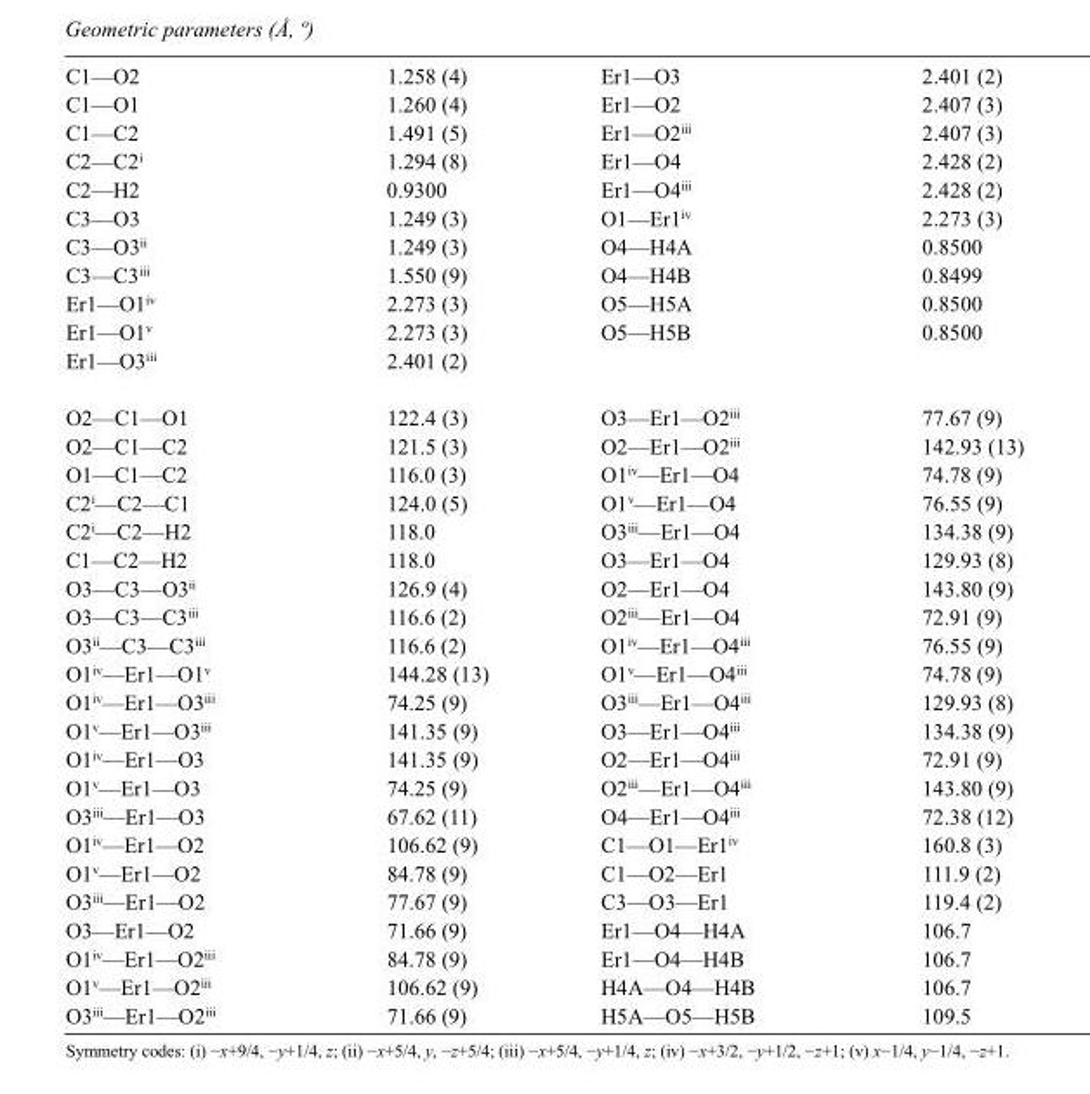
<table><tbody><tr><td>C1—O2</td><td>1.258 (4)</td><td>Er1—O3</td><td>2.401 (2)</td></tr><tr><td>C1—O1</td><td>1.260 (4)</td><td>Er1—O2</td><td>2.407 (3)</td></tr><tr><td>C1—C2</td><td>1.491 (5)</td><td>Er1—O2<sup>iii</sup></td><td>2.407 (3)</td></tr><tr><td>C2—C2<sup>i</sup></td><td>1.294 (8)</td><td>Er1—O4</td><td>2.428 (2)</td></tr><tr><td>C2—H2</td><td>0.9300</td><td>Er1—O4<sup>iii</sup></td><td>2.428 (2)</td></tr><tr><td>C3—O3</td><td>1.249 (3)</td><td>O1—Er1<sup>iv</sup></td><td>2.273 (3)</td></tr><tr><td>C3—O3<sup>ii</sup></td><td>1.249 (3)</td><td>O4—H4A</td><td>0.8500</td></tr><tr><td>C3—C3<sup>iii</sup></td><td>1.550 (9)</td><td>O4—H4B</td><td>0.8499</td></tr><tr><td>Er1—O1<sup>iv</sup></td><td>2.273 (3)</td><td>O5—H5A</td><td>0.8500</td></tr><tr><td>Er1—O1<sup>v</sup></td><td>2.273 (3)</td><td>O5—H5B</td><td>0.8500</td></tr><tr><td>Er1—O3<sup>iii</sup></td><td>2.401 (2)</td><td></td><td></td></tr><tr><td>O2—C1—O1</td><td>122.4 (3)</td><td>O3—Er1—O2<sup>iii</sup></td><td>77.67 (9)</td></tr><tr><td>O2—C1—C2</td><td>121.5 (3)</td><td>O2—Er1—O2<sup>iii</sup></td><td>142.93 (13)</td></tr><tr><td>O1—C1—C2</td><td>116.0 (3)</td><td>O1<sup>iv</sup>—Er1—O4</td><td>74.78 (9)</td></tr><tr><td>C2<sup>i</sup>—C2—C1</td><td>124.0 (5)</td><td>O1<sup>v</sup>—Er1—O4</td><td>76.55 (9)</td></tr><tr><td>C2<sup>i</sup>—C2—H2</td><td>118.0</td><td>O3<sup>iii</sup>—Er1—O4</td><td>134.38 (9)</td></tr><tr><td>C1—C2—H2</td><td>118.0</td><td>O3—Er1—O4</td><td>129.93 (8)</td></tr><tr><td>O3—C3—O3<sup>ii</sup></td><td>126.9 (4)</td><td>O2—Er1—O4</td><td>143.80 (9)</td></tr><tr><td>O3—C3—C3<sup>iii</sup></td><td>116.6 (2)</td><td>O2<sup>iii</sup>—Er1—O4</td><td>72.91 (9)</td></tr><tr><td>O3<sup>ii</sup>—C3—C3<sup>iii</sup></td><td>116.6 (2)</td><td>O1<sup>iv</sup>—Er1—O4<sup>iii</sup></td><td>76.55 (9)</td></tr><tr><td>O1<sup>iv</sup>—Er1—O1<sup>v</sup></td><td>144.28 (13)</td><td>O1<sup>v</sup>—Er1—O4<sup>iii</sup></td><td>74.78 (9)</td></tr><tr><td>O1<sup>iv</sup>—Er1—O3<sup>iii</sup></td><td>74.25 (9)</td><td>O3<sup>iii</sup>—Er1—O4<sup>iii</sup></td><td>129.93 (8)</td></tr><tr><td>O1<sup>v</sup>—Er1—O3<sup>iii</sup></td><td>141.35 (9)</td><td>O3—Er1—O4<sup>iii</sup></td><td>134.38 (9)</td></tr><tr><td>O1<sup>iv</sup>—Er1—O3</td><td>141.35 (9)</td><td>O2—Er1—O4<sup>iii</sup></td><td>72.91 (9)</td></tr><tr><td>O1<sup>v</sup>—Er1—O3</td><td>74.25 (9)</td><td>O2<sup>iii</sup>—Er1—O4<sup>iii</sup></td><td>143.80 (9)</td></tr><tr><td>O3<sup>iii</sup>—Er1—O3</td><td>67.62 (11)</td><td>O4—Er1—O4<sup>iii</sup></td><td>72.38 (12)</td></tr><tr><td>O1<sup>iv</sup>—Er1—O2</td><td>106.62 (9)</td><td>C1—O1—Er1<sup>iv</sup></td><td>160.8 (3)</td></tr><tr><td>O1<sup>v</sup>—Er1—O2</td><td>84.78 (9)</td><td>C1—O2—Er1</td><td>111.9 (2)</td></tr><tr><td>O3<sup>iii</sup>—Er1—O2</td><td>77.67 (9)</td><td>C3—O3—Er1</td><td>119.4 (2)</td></tr><tr><td>O3—Er1—O2</td><td>71.66 (9)</td><td>Er1—O4—H4A</td><td>106.7</td></tr><tr><td>O1<sup>iv</sup>—Er1—O2<sup>iii</sup></td><td>84.78 (9)</td><td>Er1—O4—H4B</td><td>106.7</td></tr><tr><td>O1<sup>v</sup>—Er1—O2<sup>iii</sup></td><td>106.62 (9)</td><td>H4A—O4—H4B</td><td>106.7</td></tr><tr><td>O3<sup>iii</sup>—Er1—O2<sup>iii</sup></td><td>71.66 (9)</td><td>H5A—O5—H5B</td><td>109.5</td></tr></tbody></table>